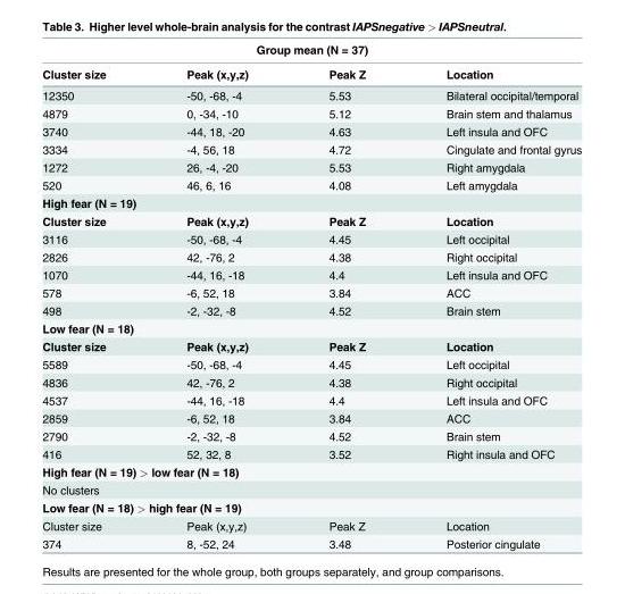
<table><thead><tr><td colspan="4">Group mean (N = 37)</td></tr><tr><td>Cluster size</td><td>Peak (x,y,z)</td><td>Peak Z</td><td>Location</td></tr></thead><tbody><tr><td>12350</td><td>-50, -68, -4</td><td>5.53</td><td>Bilateral occipital/temporal</td></tr><tr><td>4879</td><td>0, -34, -10</td><td>5.12</td><td>Brain stem and thalamus</td></tr><tr><td>3740</td><td>-44, 18, -20</td><td>4.63</td><td>Left insula and OFC</td></tr><tr><td>3334</td><td>-4, 56, 18</td><td>4.72</td><td>Cingulate and frontal gyrus</td></tr><tr><td>1272</td><td>26, -4, -20</td><td>5.53</td><td>Right amygdala</td></tr><tr><td>520</td><td>46, 6, 16</td><td>4.08</td><td>Left amygdala</td></tr><tr><td colspan="4">High fear (N = 19)</td></tr><tr><td>Cluster size</td><td>Peak (x,y,z)</td><td>Peak Z</td><td>Location</td></tr><tr><td>3116</td><td>-50, -68, -4</td><td>4.45</td><td>Left occipital</td></tr><tr><td>2826</td><td>42, -76, 2</td><td>4.38</td><td>Right occipital</td></tr><tr><td>1070</td><td>-44, 16, -18</td><td>4.4</td><td>Left insula and OFC</td></tr><tr><td>578</td><td>-6, 52, 18</td><td>3.84</td><td>ACC</td></tr><tr><td>498</td><td>-2, -32, -8</td><td>4.52</td><td>Brain stem</td></tr><tr><td colspan="4">Low fear (N = 18)</td></tr><tr><td>Cluster size</td><td>Peak (x,y,z)</td><td>Peak Z</td><td>Location</td></tr><tr><td>5589</td><td>-50, -68, -4</td><td>4.45</td><td>Left occipital</td></tr><tr><td>4836</td><td>42, -76, 2</td><td>4.38</td><td>Right occipital</td></tr><tr><td>4537</td><td>-44, 16, -18</td><td>4.4</td><td>Left insula and OFC</td></tr><tr><td>2859</td><td>-6, 52, 18</td><td>3.84</td><td>ACC</td></tr><tr><td>2790</td><td>-2, -32, -8</td><td>4.52</td><td>Brain stem</td></tr><tr><td>416</td><td>52, 32, 8</td><td>3.52</td><td>Right insula and OFC</td></tr><tr><td colspan="4">High fear (N = 19) &gt; low fear (N = 18)</td></tr><tr><td colspan="4">No clusters</td></tr><tr><td colspan="4">Low fear (N = 18) &gt; high fear (N = 19)</td></tr><tr><td>Cluster size</td><td>Peak (x,y,z)</td><td>Peak Z</td><td>Location</td></tr><tr><td>374</td><td>8, -52, 24</td><td>3.48</td><td>Posterior cingulate</td></tr></tbody></table>